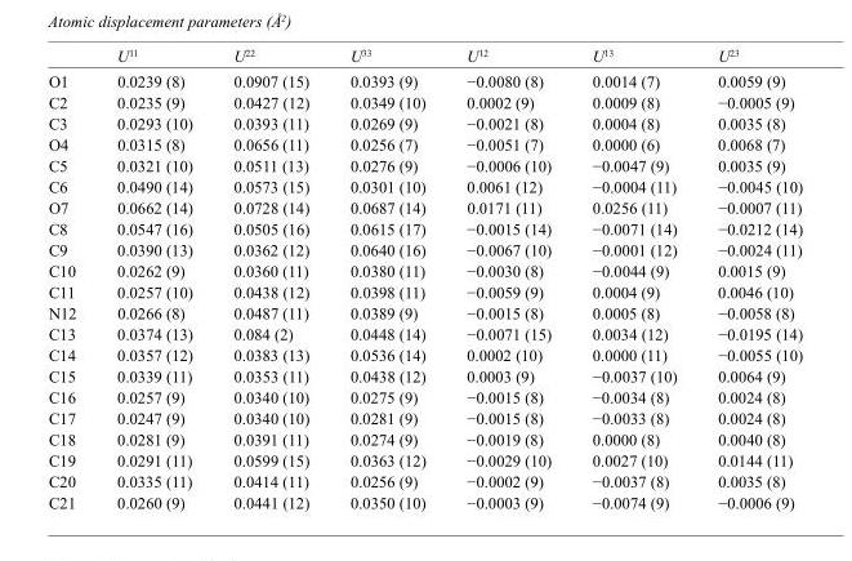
<table><thead><tr><td></td><td>U<sup>11</sup></td><td>U<sup>22</sup></td><td>U<sup>33</sup></td><td>U<sup>12</sup></td><td>U<sup>13</sup></td><td>U<sup>23</sup></td></tr></thead><tbody><tr><td>O1</td><td>0.0239 (8)</td><td>0.0907 (15)</td><td>0.0393 (9)</td><td>−0.0080 (8)</td><td>0.0014 (7)</td><td>0.0059 (9)</td></tr><tr><td>C2</td><td>0.0235 (9)</td><td>0.0427 (12)</td><td>0.0349 (10)</td><td>0.0002 (9)</td><td>0.0009 (8)</td><td>−0.0005 (9)</td></tr><tr><td>C3</td><td>0.0293 (10)</td><td>0.0393 (11)</td><td>0.0269 (9)</td><td>−0.0021 (8)</td><td>0.0004 (8)</td><td>0.0035 (8)</td></tr><tr><td>O4</td><td>0.0315 (8)</td><td>0.0656 (11)</td><td>0.0256 (7)</td><td>−0.0051 (7)</td><td>0.0000 (6)</td><td>0.0068 (7)</td></tr><tr><td>C5</td><td>0.0321 (10)</td><td>0.0511 (13)</td><td>0.0276 (9)</td><td>−0.0006 (10)</td><td>−0.0047 (9)</td><td>0.0035 (9)</td></tr><tr><td>C6</td><td>0.0490 (14)</td><td>0.0573 (15)</td><td>0.0301 (10)</td><td>0.0061 (12)</td><td>−0.0004 (11)</td><td>−0.0045 (10)</td></tr><tr><td>O7</td><td>0.0662 (14)</td><td>0.0728 (14)</td><td>0.0687 (14)</td><td>0.0171 (11)</td><td>0.0256 (11)</td><td>−0.0007 (11)</td></tr><tr><td>C8</td><td>0.0547 (16)</td><td>0.0505 (16)</td><td>0.0615 (17)</td><td>−0.0015 (14)</td><td>−0.0071 (14)</td><td>−0.0212 (14)</td></tr><tr><td>C9</td><td>0.0390 (13)</td><td>0.0362 (12)</td><td>0.0640 (16)</td><td>−0.0067 (10)</td><td>−0.0001 (12)</td><td>−0.0024 (11)</td></tr><tr><td>C10</td><td>0.0262 (9)</td><td>0.0360 (11)</td><td>0.0380 (11)</td><td>−0.0030 (8)</td><td>−0.0044 (9)</td><td>0.0015 (9)</td></tr><tr><td>C11</td><td>0.0257 (10)</td><td>0.0438 (12)</td><td>0.0398 (11)</td><td>−0.0059 (9)</td><td>0.0004 (9)</td><td>0.0046 (10)</td></tr><tr><td>N12</td><td>0.0266 (8)</td><td>0.0487 (11)</td><td>0.0389 (9)</td><td>−0.0015 (8)</td><td>0.0005 (8)</td><td>−0.0058 (8)</td></tr><tr><td>C13</td><td>0.0374 (13)</td><td>0.084 (2)</td><td>0.0448 (14)</td><td>−0.0071 (15)</td><td>0.0034 (12)</td><td>−0.0195 (14)</td></tr><tr><td>C14</td><td>0.0357 (12)</td><td>0.0383 (13)</td><td>0.0536 (14)</td><td>0.0002 (10)</td><td>0.0000 (11)</td><td>−0.0055 (10)</td></tr><tr><td>C15</td><td>0.0339 (11)</td><td>0.0353 (11)</td><td>0.0438 (12)</td><td>0.0003 (9)</td><td>−0.0037 (10)</td><td>0.0064 (9)</td></tr><tr><td>C16</td><td>0.0257 (9)</td><td>0.0340 (10)</td><td>0.0275 (9)</td><td>−0.0015 (8)</td><td>−0.0034 (8)</td><td>0.0024 (8)</td></tr><tr><td>C17</td><td>0.0247 (9)</td><td>0.0340 (10)</td><td>0.0281 (9)</td><td>−0.0015 (8)</td><td>−0.0033 (8)</td><td>0.0024 (8)</td></tr><tr><td>C18</td><td>0.0281 (9)</td><td>0.0391 (11)</td><td>0.0274 (9)</td><td>−0.0019 (8)</td><td>0.0000 (8)</td><td>0.0040 (8)</td></tr><tr><td>C19</td><td>0.0291 (11)</td><td>0.0599 (15)</td><td>0.0363 (12)</td><td>−0.0029 (10)</td><td>0.0027 (10)</td><td>0.0144 (11)</td></tr><tr><td>C20</td><td>0.0335 (11)</td><td>0.0414 (11)</td><td>0.0256 (9)</td><td>−0.0002 (9)</td><td>−0.0037 (8)</td><td>0.0035 (8)</td></tr><tr><td>C21</td><td>0.0260 (9)</td><td>0.0441 (12)</td><td>0.0350 (10)</td><td>−0.0003 (9)</td><td>−0.0074 (9)</td><td>−0.0006 (9)</td></tr></tbody></table>